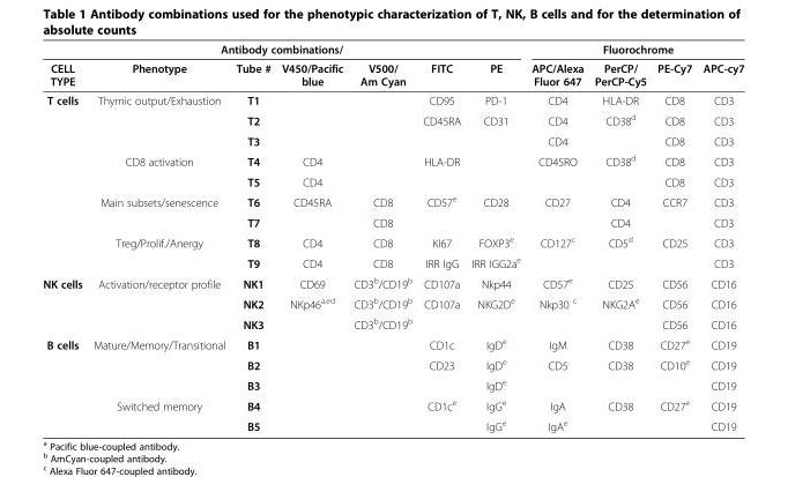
<table><thead><tr><td colspan="7">Antibody combinations/</td><td colspan="4">Fluorochrome</td></tr><tr><td>CELL TYPE</td><td>Phenotype</td><td>Tube #</td><td>V450/Pacific blue</td><td>V500/ Am Cyan</td><td>FITC</td><td>PE</td><td>APC/Alexa Fluor 647</td><td>PerCP/ PerCP-Cy5</td><td>PE-Cy7</td><td>APC-cy7</td></tr></thead><tbody><tr><td rowspan="9">T cells</td><td rowspan="3">Thymic output/Exhaustion</td><td>T1</td><td></td><td></td><td>CD95</td><td>PD-1</td><td>CD4</td><td>HLA-DR</td><td>CD8</td><td>CD3</td></tr><tr><td>T2</td><td></td><td></td><td>CD45RA</td><td>CD31</td><td>CD4</td><td>CD38<sup>d</sup></td><td>CD8</td><td>CD3</td></tr><tr><td>T3</td><td></td><td></td><td></td><td></td><td>CD4</td><td></td><td>CD8</td><td>CD3</td></tr><tr><td rowspan="2">CD8 activation</td><td>T4</td><td>CD4</td><td></td><td>HLA-DR</td><td></td><td>CD45RO</td><td>CD38<sup>d</sup></td><td>CD8</td><td>CD3</td></tr><tr><td>T5</td><td>CD4</td><td></td><td></td><td></td><td></td><td></td><td>CD8</td><td>CD3</td></tr><tr><td rowspan="2">Main subsets/senescence</td><td>T6</td><td>CD45RA</td><td>CD8</td><td>CD57<sup>e</sup></td><td>CD28</td><td>CD27</td><td>CD4</td><td>CCR7</td><td>CD3</td></tr><tr><td>T7</td><td></td><td>CD8</td><td></td><td></td><td></td><td>CD4</td><td></td><td>CD3</td></tr><tr><td rowspan="2">Treg/Prolif./Anergy</td><td>T8</td><td>CD4</td><td>CD8</td><td>KI67</td><td>FOXP3<sup>e</sup></td><td>CD127<sup>c</sup></td><td>CD5<sup>d</sup></td><td>CD25</td><td>CD3</td></tr><tr><td>T9</td><td>CD4</td><td>CD8</td><td>IRR IgG</td><td>IRR IGG2a<sup>e</sup></td><td></td><td></td><td></td><td>CD3</td></tr><tr><td rowspan="3">NK cells</td><td rowspan="3">Activation/receptor profile</td><td>NK1</td><td>CD69</td><td>CD3<sup>b</sup>/CD19<sup>b</sup></td><td>CD107a</td><td>Nkp44</td><td>CD57<sup>e</sup></td><td>CD25</td><td>CD56</td><td>CD16</td></tr><tr><td>NK2</td><td>NKp46<sup>a,ed</sup></td><td>CD3<sup>b</sup>/CD19<sup>b</sup></td><td>CD107a</td><td>NKG2D<sup>e</sup></td><td>Nkp30 <sup>c</sup></td><td>NKG2A<sup>e</sup></td><td>CD56</td><td>CD16</td></tr><tr><td>NK3</td><td></td><td>CD3<sup>b</sup>/CD19<sup>b</sup></td><td></td><td></td><td></td><td></td><td>CD56</td><td>CD16</td></tr><tr><td rowspan="5">B cells</td><td rowspan="3">Mature/Memory/Transitional</td><td>B1</td><td></td><td></td><td>CD1c</td><td>IgD<sup>e</sup></td><td>IgM</td><td>CD38</td><td>CD27<sup>e</sup></td><td>CD19</td></tr><tr><td>B2</td><td></td><td></td><td>CD23</td><td>IgD<sup>e</sup></td><td>CD5</td><td>CD38</td><td>CD10<sup>e</sup></td><td>CD19</td></tr><tr><td>B3</td><td></td><td></td><td></td><td>IgD<sup>e</sup></td><td></td><td></td><td></td><td>CD19</td></tr><tr><td rowspan="2">Switched memory</td><td>B4</td><td></td><td></td><td>CD1c<sup>e</sup></td><td>IgG<sup>e</sup></td><td>IgA</td><td>CD38</td><td>CD27<sup>e</sup></td><td>CD19</td></tr><tr><td>B5</td><td></td><td></td><td></td><td>IgG<sup>e</sup></td><td>IgA<sup>e</sup></td><td></td><td></td><td>CD19</td></tr></tbody></table>